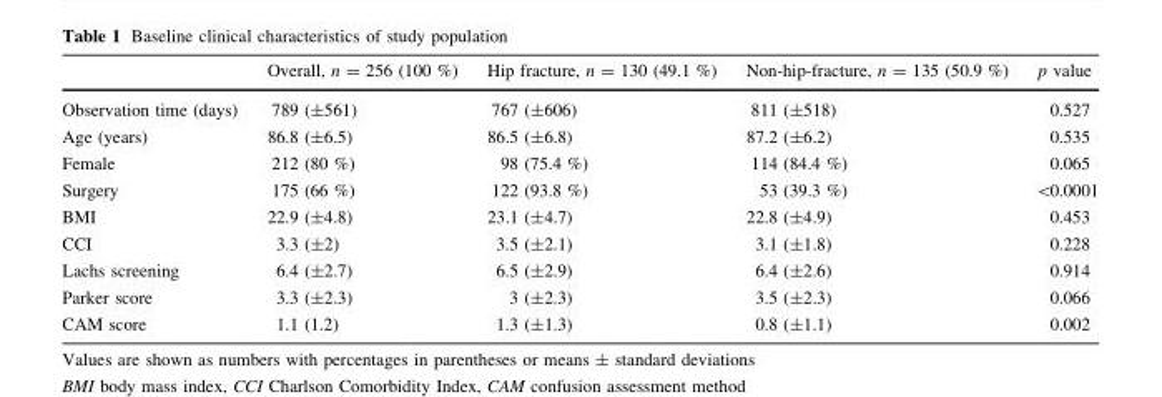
<table><thead><tr><td></td><td>Overall, n = 256 (100 %)</td><td>Hip fracture, n = 130 (49.1 %)</td><td>Non-hip-fracture, n = 135 (50.9 %)</td><td>p value</td></tr></thead><tbody><tr><td>Observation time (days)</td><td>789 (±561)</td><td>767 (±606)</td><td>811 (±518)</td><td>0.527</td></tr><tr><td>Age (years)</td><td>86.8 (±6.5)</td><td>86.5 (±6.8)</td><td>87.2 (±6.2)</td><td>0.535</td></tr><tr><td>Female</td><td>212 (80 %)</td><td>98 (75.4 %)</td><td>114 (84.4 %)</td><td>0.065</td></tr><tr><td>Surgery</td><td>175 (66 %)</td><td>122 (93.8 %)</td><td>53 (39.3 %)</td><td>&lt;0.0001</td></tr><tr><td>BMI</td><td>22.9 (±4.8)</td><td>23.1 (±4.7)</td><td>22.8 (±4.9)</td><td>0.453</td></tr><tr><td>CCI</td><td>3.3 (±2)</td><td>3.5 (±2.1)</td><td>3.1 (±1.8)</td><td>0.228</td></tr><tr><td>Lachs screening</td><td>6.4 (±2.7)</td><td>6.5 (±2.9)</td><td>6.4 (±2.6)</td><td>0.914</td></tr><tr><td>Parker score</td><td>3.3 (±2.3)</td><td>3 (±2.3)</td><td>3.5 (±2.3)</td><td>0.066</td></tr><tr><td>CAM score</td><td>1.1 (1.2)</td><td>1.3 (±1.3)</td><td>0.8 (±1.1)</td><td>0.002</td></tr></tbody></table>